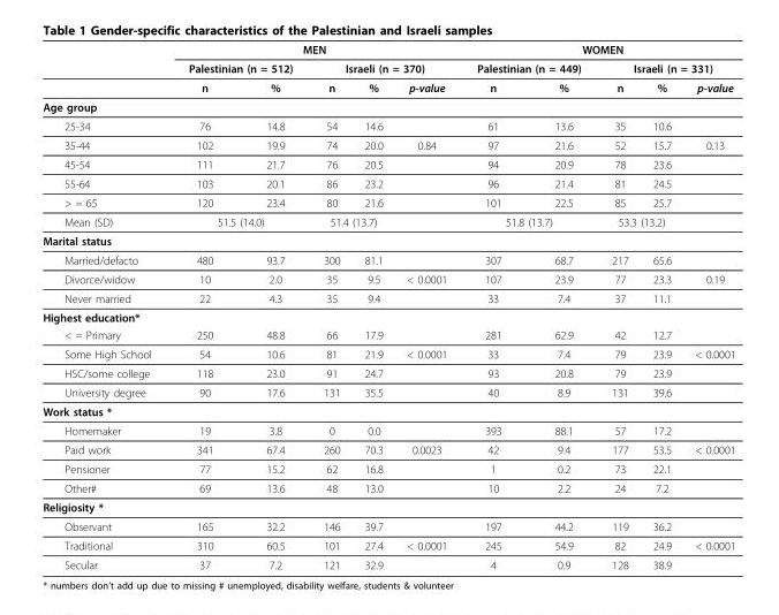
<table><thead><tr><td rowspan="3"></td><td colspan="5">MEN</td><td colspan="5">WOMEN</td></tr><tr><td colspan="2">Palestinian (n = 512)</td><td colspan="3">Israeli (n = 370)</td><td colspan="2">Palestinian (n = 449)</td><td colspan="3">Israeli (n = 331)</td></tr><tr><td>n</td><td>%</td><td>n</td><td>%</td><td>p-value</td><td>n</td><td>%</td><td>n</td><td>%</td><td>p-value</td></tr></thead><tbody><tr><td colspan="11">Age group</td></tr><tr><td>25-34</td><td>76</td><td>14.8</td><td>54</td><td>14.6</td><td></td><td>61</td><td>13.6</td><td>35</td><td>10.6</td><td></td></tr><tr><td>35-44</td><td>102</td><td>19.9</td><td>74</td><td>20.0</td><td>0.84</td><td>97</td><td>21.6</td><td>52</td><td>15.7</td><td>0.13</td></tr><tr><td>45-54</td><td>111</td><td>21.7</td><td>76</td><td>20.5</td><td></td><td>94</td><td>20.9</td><td>78</td><td>23.6</td><td></td></tr><tr><td>55-64</td><td>103</td><td>20.1</td><td>86</td><td>23.2</td><td></td><td>96</td><td>21.4</td><td>81</td><td>24.5</td><td></td></tr><tr><td>&gt; = 65</td><td>120</td><td>23.4</td><td>80</td><td>21.6</td><td></td><td>101</td><td>22.5</td><td>85</td><td>25.7</td><td></td></tr><tr><td>Mean (SD)</td><td colspan="2">51.5 (14.0)</td><td colspan="2">51.4 (13.7)</td><td></td><td colspan="2">51.8 (13.7)</td><td colspan="2">53.3 (13.2)</td><td></td></tr><tr><td colspan="11">Marital status</td></tr><tr><td>Married/defacto</td><td>480</td><td>93.7</td><td>300</td><td>81.1</td><td></td><td>307</td><td>68.7</td><td>217</td><td>65.6</td><td></td></tr><tr><td>Divorce/widow</td><td>10</td><td>2.0</td><td>35</td><td>9.5</td><td>&lt; 0.0001</td><td>107</td><td>23.9</td><td>77</td><td>23.3</td><td>0.19</td></tr><tr><td>Never married</td><td>22</td><td>4.3</td><td>35</td><td>9.4</td><td></td><td>33</td><td>7.4</td><td>37</td><td>11.1</td><td></td></tr><tr><td colspan="11">Highest education*</td></tr><tr><td>&lt; = Primary</td><td>250</td><td>48.8</td><td>66</td><td>17.9</td><td></td><td>281</td><td>62.9</td><td>42</td><td>12.7</td><td></td></tr><tr><td>Some High School</td><td>54</td><td>10.6</td><td>81</td><td>21.9</td><td>&lt; 0.0001</td><td>33</td><td>7.4</td><td>79</td><td>23.9</td><td>&lt; 0.0001</td></tr><tr><td>HSC/some college</td><td>118</td><td>23.0</td><td>91</td><td>24.7</td><td></td><td>93</td><td>20.8</td><td>79</td><td>23.9</td><td></td></tr><tr><td>University degree</td><td>90</td><td>17.6</td><td>131</td><td>35.5</td><td></td><td>40</td><td>8.9</td><td>131</td><td>39.6</td><td></td></tr><tr><td colspan="11">Work status *</td></tr><tr><td>Homemaker</td><td>19</td><td>3.8</td><td>0</td><td>0.0</td><td></td><td>393</td><td>88.1</td><td>57</td><td>17.2</td><td></td></tr><tr><td>Paid work</td><td>341</td><td>67.4</td><td>260</td><td>70.3</td><td>0.0023</td><td>42</td><td>9.4</td><td>177</td><td>53.5</td><td>&lt; 0.0001</td></tr><tr><td>Pensioner</td><td>77</td><td>15.2</td><td>62</td><td>16.8</td><td></td><td>1</td><td>0.2</td><td>73</td><td>22.1</td><td></td></tr><tr><td>Other#</td><td>69</td><td>13.6</td><td>48</td><td>13.0</td><td></td><td>10</td><td>2.2</td><td>24</td><td>7.2</td><td></td></tr><tr><td colspan="11">Religiosity *</td></tr><tr><td>Observant</td><td>165</td><td>32.2</td><td>146</td><td>39.7</td><td></td><td>197</td><td>44.2</td><td>119</td><td>36.2</td><td></td></tr><tr><td>Traditional</td><td>310</td><td>60.5</td><td>101</td><td>27.4</td><td>&lt; 0.0001</td><td>245</td><td>54.9</td><td>82</td><td>24.9</td><td>&lt; 0.0001</td></tr><tr><td>Secular</td><td>37</td><td>7.2</td><td>121</td><td>32.9</td><td></td><td>4</td><td>0.9</td><td>128</td><td>38.9</td><td></td></tr></tbody></table>